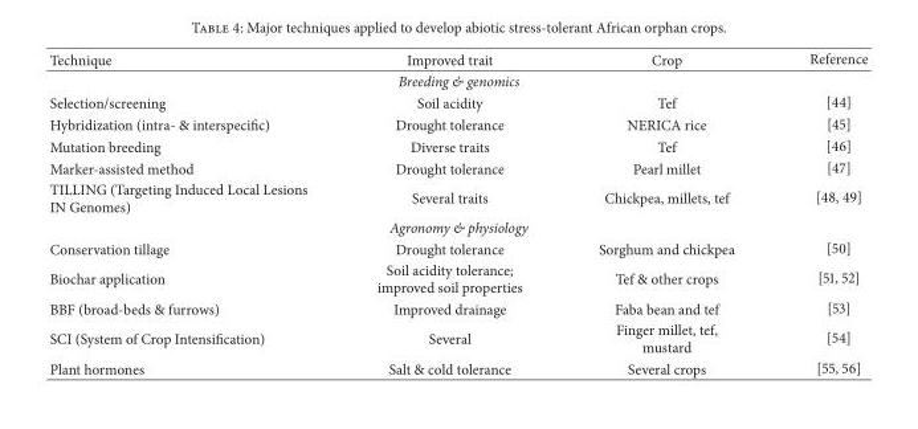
<table><thead><tr><td>Technique</td><td>Improved trait</td><td>Crop</td><td>Reference</td></tr></thead><tbody><tr><td colspan="4">Breeding &amp; genomics</td></tr><tr><td>Selection/screening</td><td>Soil acidity</td><td>Tef</td><td>[44]</td></tr><tr><td>Hybridization (intra- &amp; interspecific)</td><td>Drought tolerance</td><td>NERICA rice</td><td>[45]</td></tr><tr><td>Mutation breeding</td><td>Diverse traits</td><td>Tef</td><td>[46]</td></tr><tr><td>Marker-assisted method</td><td>Drought tolerance</td><td>Pearl millet</td><td>[47]</td></tr><tr><td>TILLING (Targeting Induced Local Lesions IN Genomes)</td><td>Several traits</td><td>Chickpea, millets, tef</td><td>[48, 49]</td></tr><tr><td colspan="4">Agronomy &amp; physiology</td></tr><tr><td>Conservation tillage</td><td>Drought tolerance</td><td>Sorghum and chickpea</td><td>[50]</td></tr><tr><td>Biochar application</td><td>Soil acidity tolerance; improved soil properties</td><td>Tef &amp; other crops</td><td>[51, 52]</td></tr><tr><td>BBF (broad-beds &amp; furrows)</td><td>Improved drainage</td><td>Faba bean and tef</td><td>[53]</td></tr><tr><td>SCI (System of Crop Intensification)</td><td>Several</td><td>Finger millet, tef, mustard</td><td>[54]</td></tr><tr><td>Plant hormones</td><td>Salt &amp; cold tolerance</td><td>Several crops</td><td>[55, 56]</td></tr></tbody></table>